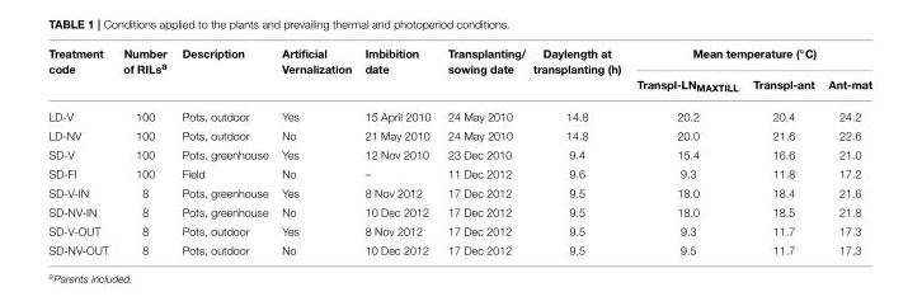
<table><thead><tr><td rowspan="2">Treatment code</td><td rowspan="2">Number of RILs<sup>a</sup></td><td rowspan="2">Description</td><td rowspan="2">Artificial Vernalization</td><td rowspan="2">Imbibition date</td><td rowspan="2">Transplanting/ sowing date</td><td rowspan="2">Daylength at transplanting (h)</td><td colspan="3">Mean temperature (◦C)</td></tr><tr><td>Transpl-LN<sub>MAXTILL</sub></td><td>Transpl-ant</td><td>Ant-mat</td></tr></thead><tbody><tr><td>LD-V</td><td>100</td><td>Pots, outdoor</td><td>Yes</td><td>15 April 2010</td><td>24 May 2010</td><td>14.8</td><td>20.2</td><td>20.4</td><td>24.2</td></tr><tr><td>LD-NV</td><td>100</td><td>Pots, outdoor</td><td>No</td><td>21 May 2010</td><td>24 May 2010</td><td>14.8</td><td>20.0</td><td>21.6</td><td>22.6</td></tr><tr><td>SD-V</td><td>100</td><td>Pots, greenhouse</td><td>Yes</td><td>12 Nov 2010</td><td>23 Dec 2010</td><td>9.4</td><td>15.4</td><td>16.6</td><td>21.0</td></tr><tr><td>SD-FI</td><td>100</td><td>Field</td><td>No</td><td>–</td><td>11 Dec 2012</td><td>9.6</td><td>9.3</td><td>11.8</td><td>17.2</td></tr><tr><td>SD-V-IN</td><td>8</td><td>Pots, greenhouse</td><td>Yes</td><td>8 Nov 2012</td><td>17 Dec 2012</td><td>9.5</td><td>18.0</td><td>18.4</td><td>21.6</td></tr><tr><td>SD-NV-IN</td><td>8</td><td>Pots, greenhouse</td><td>No</td><td>10 Dec 2012</td><td>17 Dec 2012</td><td>9.5</td><td>18.0</td><td>18.5</td><td>21.8</td></tr><tr><td>SD-V-OUT</td><td>8</td><td>Pots, outdoor</td><td>Yes</td><td>8 Nov 2012</td><td>17 Dec 2012</td><td>9.5</td><td>9.3</td><td>11.7</td><td>17.3</td></tr><tr><td>SD-NV-OUT</td><td>8</td><td>Pots, outdoor</td><td>No</td><td>10 Dec 2012</td><td>17 Dec 2012</td><td>9.5</td><td>9.5</td><td>11.7</td><td>17.3</td></tr></tbody></table>